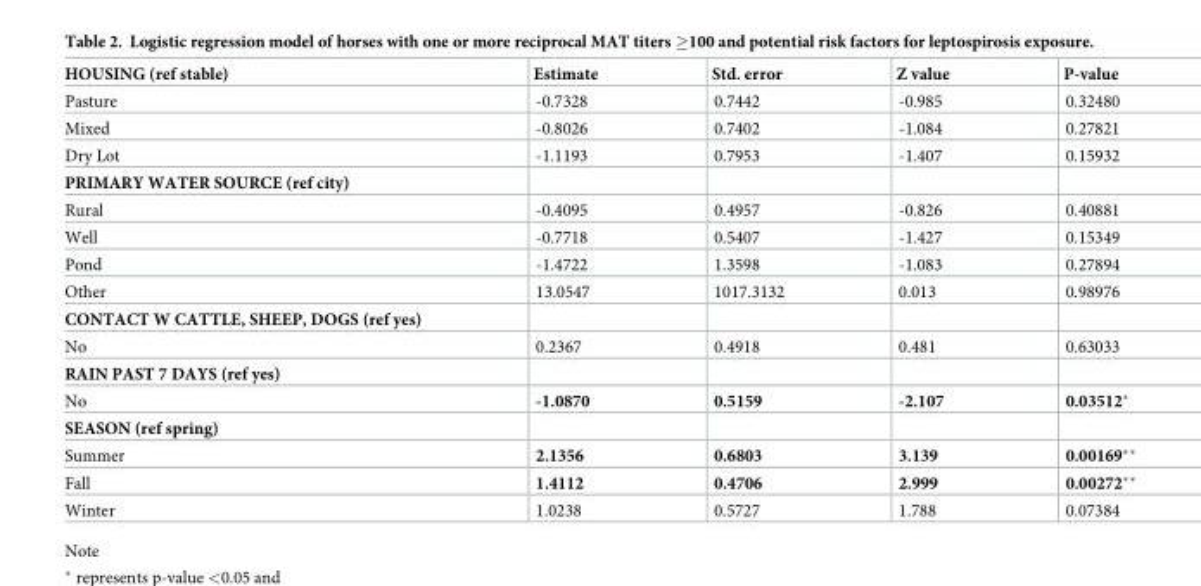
<table><thead><tr><td>HOUSING (ref stable)</td><td>Estimate</td><td>Std. error</td><td>Z value</td><td>P-value</td></tr></thead><tbody><tr><td>Pasture</td><td>-0.7328</td><td>0.7442</td><td>-0.985</td><td>0.32480</td></tr><tr><td>Mixed</td><td>-0.8026</td><td>0.7402</td><td>-1.084</td><td>0.27821</td></tr><tr><td>Dry Lot</td><td>-1.1193</td><td>0.7953</td><td>-1.407</td><td>0.15932</td></tr><tr><td colspan="5">PRIMARY WATER SOURCE (ref city)</td></tr><tr><td>Rural</td><td>-0.4095</td><td>0.4957</td><td>-0.826</td><td>0.40881</td></tr><tr><td>Well</td><td>-0.7718</td><td>0.5407</td><td>-1.427</td><td>0.15349</td></tr><tr><td>Pond</td><td>-1.4722</td><td>1.3598</td><td>-1.083</td><td>0.27894</td></tr><tr><td>Other</td><td>13.0547</td><td>1017.3132</td><td>0.013</td><td>0.98976</td></tr><tr><td colspan="5">CONTACT W CATTLE, SHEEP, DOGS (ref yes)</td></tr><tr><td>No</td><td>0.2367</td><td>0.4918</td><td>0.481</td><td>0.63033</td></tr><tr><td colspan="5">RAIN PAST 7 DAYS (ref yes)</td></tr><tr><td>No</td><td>-1.0870</td><td>0.5159</td><td>-2.107</td><td>0.03512*</td></tr><tr><td colspan="5">SEASON (ref spring)</td></tr><tr><td>Summer</td><td>2.1356</td><td>0.6803</td><td>3.139</td><td>0.00169**</td></tr><tr><td>Fall</td><td>1.4112</td><td>0.4706</td><td>2.999</td><td>0.00272**</td></tr><tr><td>Winter</td><td>1.0238</td><td>0.5727</td><td>1.788</td><td>0.07384</td></tr></tbody></table>